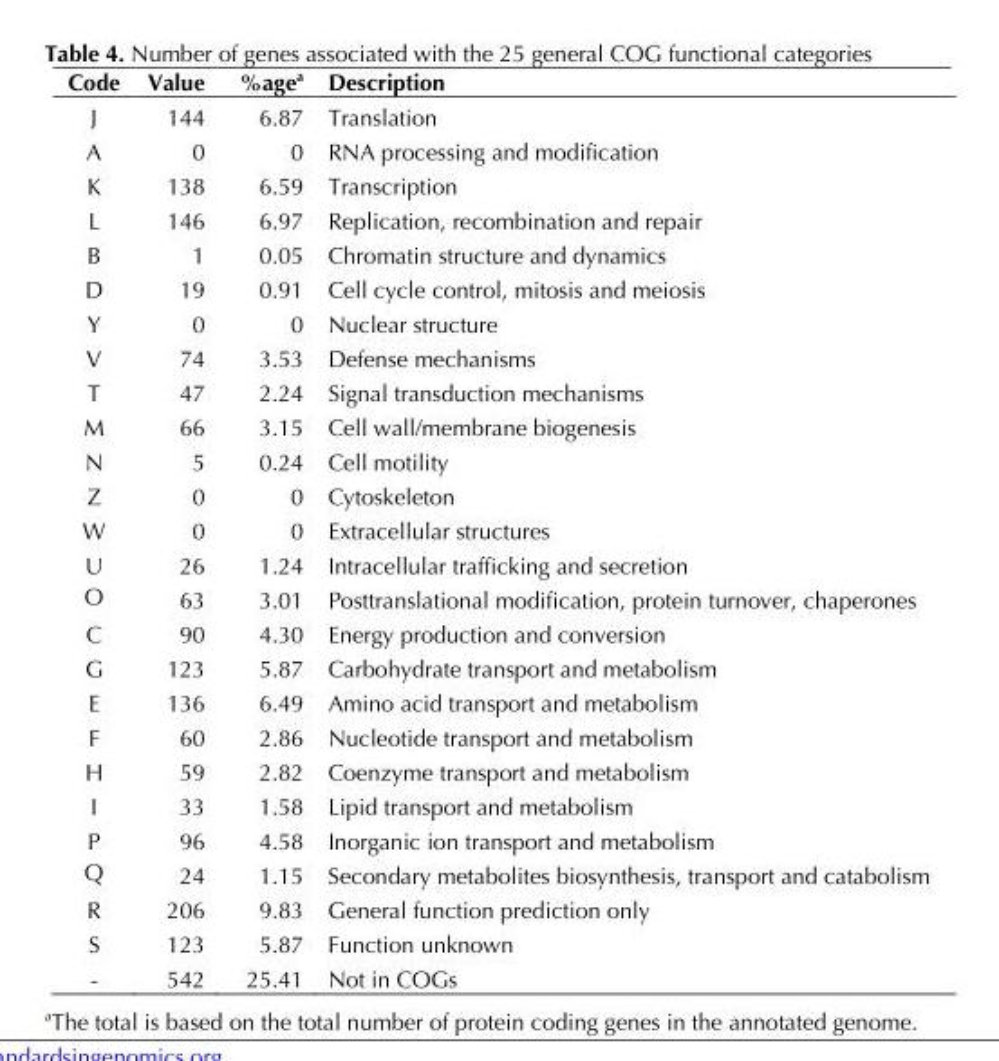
<table><thead><tr><td>Code</td><td>Value</td><td>%age<sup>a</sup></td><td>Description</td></tr></thead><tbody><tr><td>J</td><td>144</td><td>6.87</td><td>Translation</td></tr><tr><td>A</td><td>0</td><td>0</td><td>RNA processing and modification</td></tr><tr><td>K</td><td>138</td><td>6.59</td><td>Transcription</td></tr><tr><td>L</td><td>146</td><td>6.97</td><td>Replication, recombination and repair</td></tr><tr><td>B</td><td>1</td><td>0.05</td><td>Chromatin structure and dynamics</td></tr><tr><td>D</td><td>19</td><td>0.91</td><td>Cell cycle control, mitosis and meiosis</td></tr><tr><td>Y</td><td>0</td><td>0</td><td>Nuclear structure</td></tr><tr><td>V</td><td>74</td><td>3.53</td><td>Defense mechanisms</td></tr><tr><td>T</td><td>47</td><td>2.24</td><td>Signal transduction mechanisms</td></tr><tr><td>M</td><td>66</td><td>3.15</td><td>Cell wall/membrane biogenesis</td></tr><tr><td>N</td><td>5</td><td>0.24</td><td>Cell motility</td></tr><tr><td>Z</td><td>0</td><td>0</td><td>Cytoskeleton</td></tr><tr><td>W</td><td>0</td><td>0</td><td>Extracellular structures</td></tr><tr><td>U</td><td>26</td><td>1.24</td><td>Intracellular trafficking and secretion</td></tr><tr><td>O</td><td>63</td><td>3.01</td><td>Posttranslational modification, protein turnover, chaperones</td></tr><tr><td>C</td><td>90</td><td>4.30</td><td>Energy production and conversion</td></tr><tr><td>G</td><td>123</td><td>5.87</td><td>Carbohydrate transport and metabolism</td></tr><tr><td>E</td><td>136</td><td>6.49</td><td>Amino acid transport and metabolism</td></tr><tr><td>F</td><td>60</td><td>2.86</td><td>Nucleotide transport and metabolism</td></tr><tr><td>H</td><td>59</td><td>2.82</td><td>Coenzyme transport and metabolism</td></tr><tr><td>I</td><td>33</td><td>1.58</td><td>Lipid transport and metabolism</td></tr><tr><td>P</td><td>96</td><td>4.58</td><td>Inorganic ion transport and metabolism</td></tr><tr><td>Q</td><td>24</td><td>1.15</td><td>Secondary metabolites biosynthesis, transport and catabolism</td></tr><tr><td>R</td><td>206</td><td>9.83</td><td>General function prediction only</td></tr><tr><td>S</td><td>123</td><td>5.87</td><td>Function unknown</td></tr><tr><td>-</td><td>542</td><td>25.41</td><td>Not in COGs</td></tr></tbody></table>